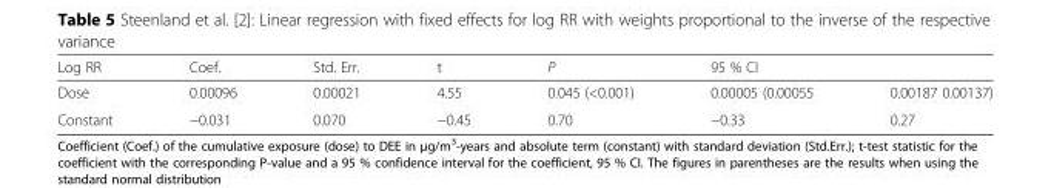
<table><thead><tr><td rowspan="2">Log RR Dose</td><td rowspan="2">Coef. 0.00096</td><td rowspan="2">Std. Err. 0.00021</td><td rowspan="2">t 4.55</td><td rowspan="2">P 0.045 (&lt;0.001)</td><td colspan="2">95 % CI</td></tr><tr><td>0.00005 (0.00055</td><td>0.00187 0.00137)</td></tr></thead><tbody><tr><td>Constant</td><td>−0.031</td><td>0.070</td><td>−0.45</td><td>0.70</td><td>−0.33</td><td>0.27</td></tr></tbody></table>